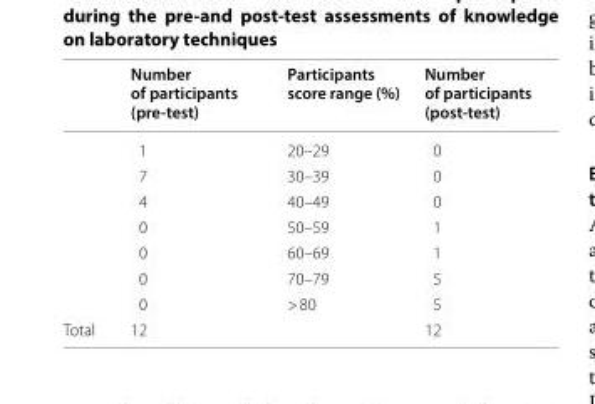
<table><thead><tr><td></td><td>Number of participants (pre‑test)</td><td>Participants score range (%)</td><td>Number of participants (post‑test)</td></tr></thead><tbody><tr><td></td><td>1</td><td>20–29</td><td>0</td></tr><tr><td></td><td>7</td><td>30–39</td><td>0</td></tr><tr><td></td><td>4</td><td>40–49</td><td>0</td></tr><tr><td></td><td>0</td><td>50–59</td><td>1</td></tr><tr><td></td><td>0</td><td>60–69</td><td>1</td></tr><tr><td></td><td>0</td><td>70–79</td><td>5</td></tr><tr><td></td><td>0</td><td>&gt; 80</td><td>5</td></tr><tr><td>Total</td><td>12</td><td></td><td>12</td></tr></tbody></table>